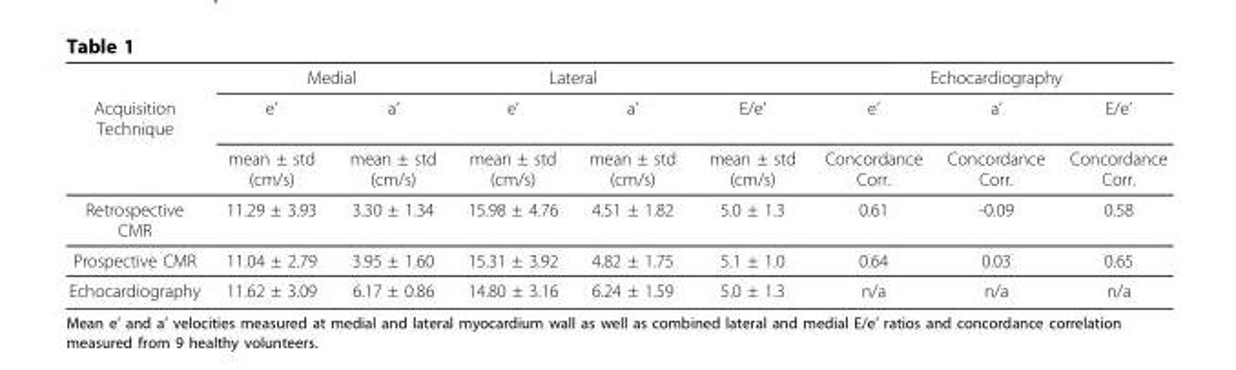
<table><thead><tr><td rowspan="3">Acquisition Technique</td><td colspan="2">Medial</td><td colspan="2">Lateral</td><td rowspan="3">E/e’ mean ± std (cm/s)</td><td colspan="3">Echocardiography</td></tr><tr><td rowspan="2">e’ mean ± std (cm/s)</td><td rowspan="2">a’ mean ± std (cm/s)</td><td rowspan="2">e’ mean ± std (cm/s)</td><td rowspan="2">a’ mean ± std (cm/s)</td><td rowspan="2">e’ Concordance Corr.</td><td rowspan="2">a’ Concordance Corr.</td><td rowspan="2">E/e’ Concordance Corr.</td></tr><tr></tr></thead><tbody><tr><td>Retrospective CMR</td><td>11.29 ± 3.93</td><td>3.30 ± 1.34</td><td>15.98 ± 4.76</td><td>4.51 ± 1.82</td><td>5.0 ± 1.3</td><td>0.61</td><td>-0.09</td><td>0.58</td></tr><tr><td>Prospective CMR</td><td>11.04 ± 2.79</td><td>3.95 ± 1.60</td><td>15.31 ± 3.92</td><td>4.82 ± 1.75</td><td>5.1 ± 1.0</td><td>0.64</td><td>0.03</td><td>0.65</td></tr><tr><td>Echocardiography</td><td>11.62 ± 3.09</td><td>6.17 ± 0.86</td><td>14.80 ± 3.16</td><td>6.24 ± 1.59</td><td>5.0 ± 1.3</td><td>n/a</td><td>n/a</td><td>n/a</td></tr></tbody></table>